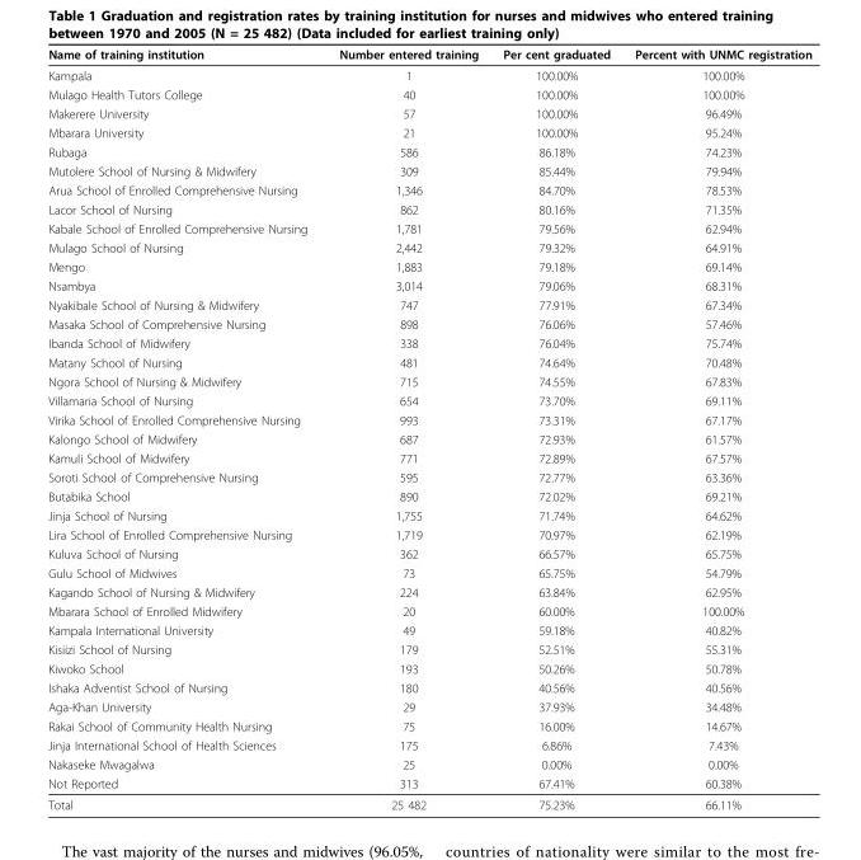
<table><thead><tr><td>Name of training institution</td><td>Number entered training</td><td>Per cent graduated</td><td>Percent with UNMC registration</td></tr></thead><tbody><tr><td>Kampala</td><td>1</td><td>100.00%</td><td>100.00%</td></tr><tr><td>Mulago Health Tutors College</td><td>40</td><td>100.00%</td><td>100.00%</td></tr><tr><td>Makerere University</td><td>57</td><td>100.00%</td><td>96.49%</td></tr><tr><td>Mbarara University</td><td>21</td><td>100.00%</td><td>95.24%</td></tr><tr><td>Rubaga</td><td>586</td><td>86.18%</td><td>74.23%</td></tr><tr><td>Mutolere School of Nursing &amp; Midwifery</td><td>309</td><td>85.44%</td><td>79.94%</td></tr><tr><td>Arua School of Enrolled Comprehensive Nursing</td><td>1,346</td><td>84.70%</td><td>78.53%</td></tr><tr><td>Lacor School of Nursing</td><td>862</td><td>80.16%</td><td>71.35%</td></tr><tr><td>Kabale School of Enrolled Comprehensive Nursing</td><td>1,781</td><td>79.56%</td><td>62.94%</td></tr><tr><td>Mulago School of Nursing</td><td>2,442</td><td>79.32%</td><td>64.91%</td></tr><tr><td>Mengo</td><td>1,883</td><td>79.18%</td><td>69.14%</td></tr><tr><td>Nsambya</td><td>3,014</td><td>79.06%</td><td>68.31%</td></tr><tr><td>Nyakibale School of Nursing &amp; Midwifery</td><td>747</td><td>77.91%</td><td>67.34%</td></tr><tr><td>Masaka School of Comprehensive Nursing</td><td>898</td><td>76.06%</td><td>57.46%</td></tr><tr><td>Ibanda School of Midwifery</td><td>338</td><td>76.04%</td><td>75.74%</td></tr><tr><td>Matany School of Nursing</td><td>481</td><td>74.64%</td><td>70.48%</td></tr><tr><td>Ngora School of Nursing &amp; Midwifery</td><td>715</td><td>74.55%</td><td>67.83%</td></tr><tr><td>Villamaria School of Nursing</td><td>654</td><td>73.70%</td><td>69.11%</td></tr><tr><td>Virika School of Enrolled Comprehensive Nursing</td><td>993</td><td>73.31%</td><td>67.17%</td></tr><tr><td>Kalongo School of Midwifery</td><td>687</td><td>72.93%</td><td>61.57%</td></tr><tr><td>Kamuli School of Midwifery</td><td>771</td><td>72.89%</td><td>67.57%</td></tr><tr><td>Soroti School of Comprehensive Nursing</td><td>595</td><td>72.77%</td><td>63.36%</td></tr><tr><td>Butabika School</td><td>890</td><td>72.02%</td><td>69.21%</td></tr><tr><td>Jinja School of Nursing</td><td>1,755</td><td>71.74%</td><td>64.62%</td></tr><tr><td>Lira School of Enrolled Comprehensive Nursing</td><td>1,719</td><td>70.97%</td><td>62.19%</td></tr><tr><td>Kuluva School of Nursing</td><td>362</td><td>66.57%</td><td>65.75%</td></tr><tr><td>Gulu School of Midwives</td><td>73</td><td>65.75%</td><td>54.79%</td></tr><tr><td>Kagando School of Nursing &amp; Midwifery</td><td>224</td><td>63.84%</td><td>62.95%</td></tr><tr><td>Mbarara School of Enrolled Midwifery</td><td>20</td><td>60.00%</td><td>100.00%</td></tr><tr><td>Kampala International University</td><td>49</td><td>59.18%</td><td>40.82%</td></tr><tr><td>Kisiizi School of Nursing</td><td>179</td><td>52.51%</td><td>55.31%</td></tr><tr><td>Kiwoko School</td><td>193</td><td>50.26%</td><td>50.78%</td></tr><tr><td>Ishaka Adventist School of Nursing</td><td>180</td><td>40.56%</td><td>40.56%</td></tr><tr><td>Aga-Khan University</td><td>29</td><td>37.93%</td><td>34.48%</td></tr><tr><td>Rakai School of Community Health Nursing</td><td>75</td><td>16.00%</td><td>14.67%</td></tr><tr><td>Jinja International School of Health Sciences</td><td>175</td><td>6.86%</td><td>7.43%</td></tr><tr><td>Nakaseke Mwagalwa</td><td>25</td><td>0.00%</td><td>0.00%</td></tr><tr><td>Not Reported</td><td>313</td><td>67.41%</td><td>60.38%</td></tr><tr><td>Total</td><td>25 482</td><td>75.23%</td><td>66.11%</td></tr></tbody></table>